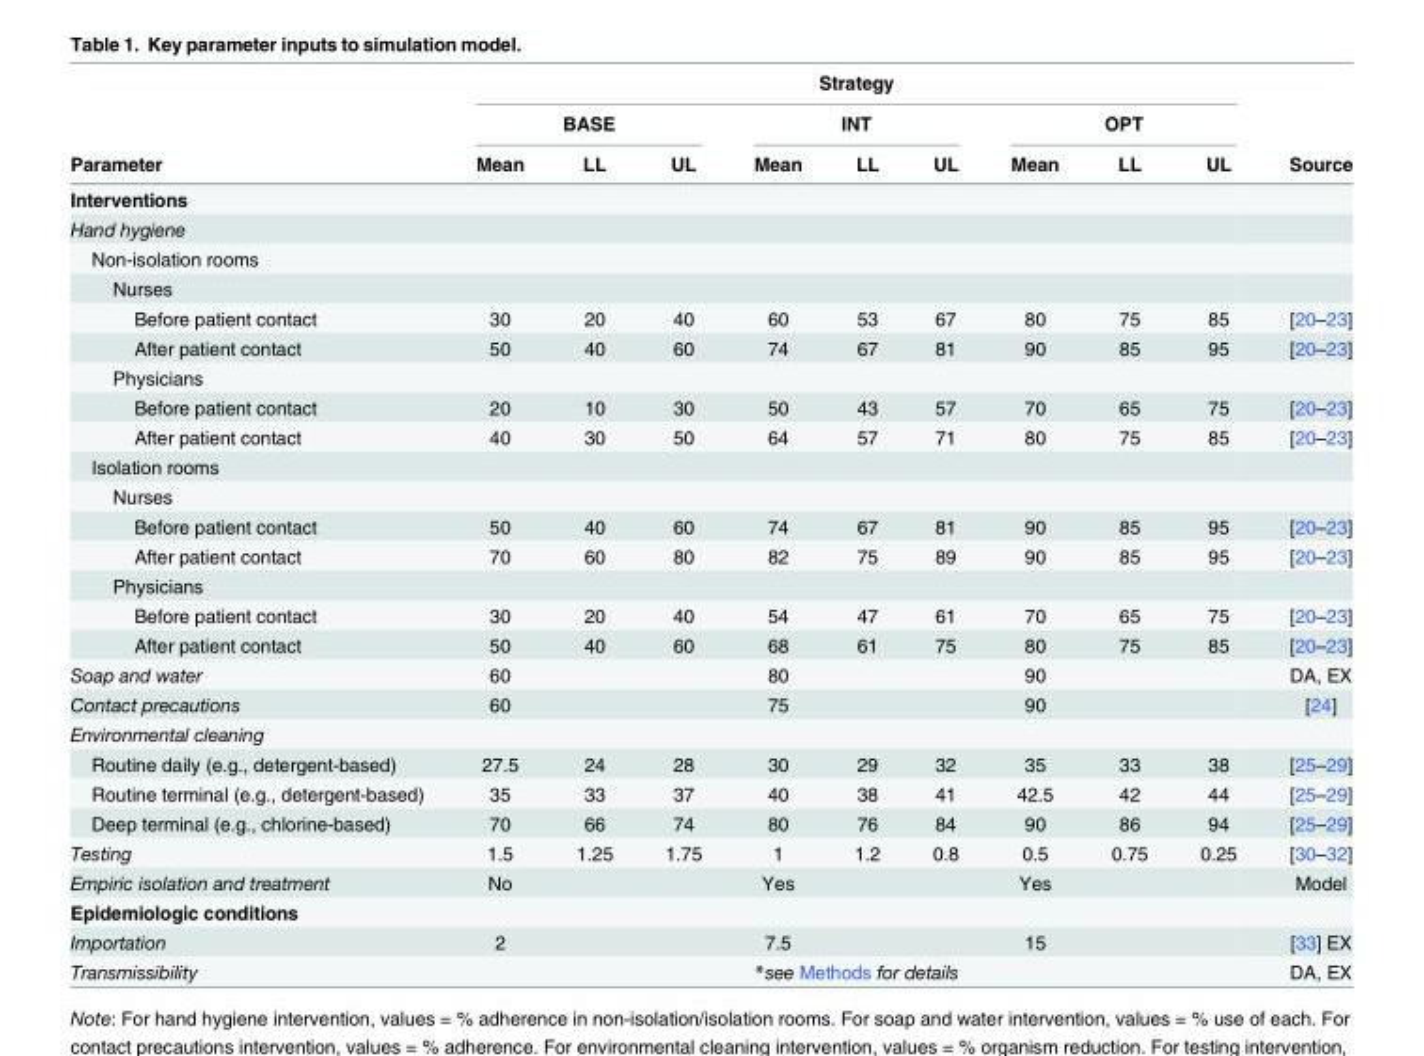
<table><thead><tr><td rowspan="3">Parameter</td><td colspan="9">Strategy</td><td rowspan="3">Source</td></tr><tr><td colspan="3">BASE</td><td colspan="3">INT</td><td colspan="3">OPT</td></tr><tr><td>Mean</td><td>LL</td><td>UL</td><td>Mean</td><td>LL</td><td>UL</td><td>Mean</td><td>LL</td><td>UL</td></tr></thead><tbody><tr><td colspan="11">Interventions</td></tr><tr><td colspan="11">Hand hygiene</td></tr><tr><td colspan="11">Non-isolation rooms</td></tr><tr><td colspan="11">Nurses</td></tr><tr><td>Before patient contact</td><td>30</td><td>20</td><td>40</td><td>60</td><td>53</td><td>67</td><td>80</td><td>75</td><td>85</td><td>[20–23]</td></tr><tr><td>After patient contact</td><td>50</td><td>40</td><td>60</td><td>74</td><td>67</td><td>81</td><td>90</td><td>85</td><td>95</td><td>[20–23]</td></tr><tr><td colspan="11">Physicians</td></tr><tr><td>Before patient contact</td><td>20</td><td>10</td><td>30</td><td>50</td><td>43</td><td>57</td><td>70</td><td>65</td><td>75</td><td>[20–23]</td></tr><tr><td>After patient contact</td><td>40</td><td>30</td><td>50</td><td>64</td><td>57</td><td>71</td><td>80</td><td>75</td><td>85</td><td>[20–23]</td></tr><tr><td colspan="11">Isolation rooms</td></tr><tr><td colspan="11">Nurses</td></tr><tr><td>Before patient contact</td><td>50</td><td>40</td><td>60</td><td>74</td><td>67</td><td>81</td><td>90</td><td>85</td><td>95</td><td>[20–23]</td></tr><tr><td>After patient contact</td><td>70</td><td>60</td><td>80</td><td>82</td><td>75</td><td>89</td><td>90</td><td>85</td><td>95</td><td>[20–23]</td></tr><tr><td colspan="11">Physicians</td></tr><tr><td>Before patient contact</td><td>30</td><td>20</td><td>40</td><td>54</td><td>47</td><td>61</td><td>70</td><td>65</td><td>75</td><td>[20–23]</td></tr><tr><td>After patient contact</td><td>50</td><td>40</td><td>60</td><td>68</td><td>61</td><td>75</td><td>80</td><td>75</td><td>85</td><td>[20–23]</td></tr><tr><td>Soap and water</td><td>60</td><td></td><td></td><td>80</td><td></td><td></td><td>90</td><td></td><td></td><td>DA, EX</td></tr><tr><td>Contact precautions</td><td>60</td><td></td><td></td><td>75</td><td></td><td></td><td>90</td><td></td><td></td><td>[24]</td></tr><tr><td colspan="11">Environmental cleaning</td></tr><tr><td>Routine daily (e.g., detergent-based)</td><td>27.5</td><td>24</td><td>28</td><td>30</td><td>29</td><td>32</td><td>35</td><td>33</td><td>38</td><td>[25–29]</td></tr><tr><td>Routine terminal (e.g., detergent-based)</td><td>35</td><td>33</td><td>37</td><td>40</td><td>38</td><td>41</td><td>42.5</td><td>42</td><td>44</td><td>[25–29]</td></tr><tr><td>Deep terminal (e.g., chlorine-based)</td><td>70</td><td>66</td><td>74</td><td>80</td><td>76</td><td>84</td><td>90</td><td>86</td><td>94</td><td>[25–29]</td></tr><tr><td>Testing</td><td>1.5</td><td>1.25</td><td>1.75</td><td>1</td><td>1.2</td><td>0.8</td><td>0.5</td><td>0.75</td><td>0.25</td><td>[30–32]</td></tr><tr><td>Empiric isolation and treatment</td><td>No</td><td></td><td></td><td>Yes</td><td></td><td></td><td>Yes</td><td></td><td></td><td>Model</td></tr><tr><td colspan="11">Epidemiologic conditions</td></tr><tr><td>Importation</td><td>2</td><td></td><td></td><td>7.5</td><td></td><td></td><td>15</td><td></td><td></td><td>[33] EX</td></tr><tr><td>Transmissibility</td><td></td><td></td><td></td><td colspan="3">*see Methods for details</td><td></td><td></td><td></td><td>DA, EX</td></tr></tbody></table>